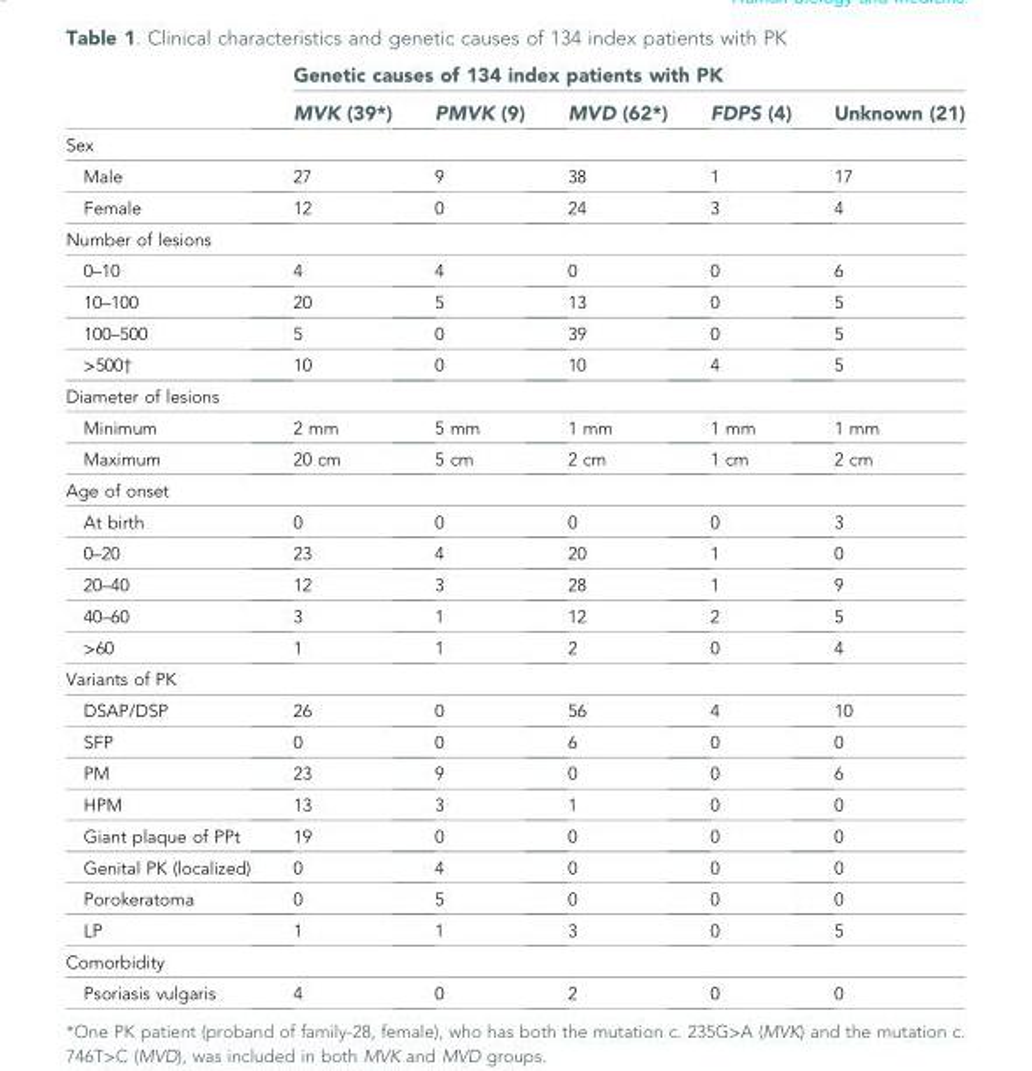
<table><thead><tr><td rowspan="2"></td><td colspan="5">Genetic causes of 134 index patients with PK</td></tr><tr><td>MVK (39*)</td><td>PMVK (9)</td><td>MVD (62*)</td><td>FDPS (4)</td><td>Unknown (21)</td></tr></thead><tbody><tr><td colspan="6">Sex</td></tr><tr><td>Male</td><td>27</td><td>9</td><td>38</td><td>1</td><td>17</td></tr><tr><td>Female</td><td>12</td><td>0</td><td>24</td><td>3</td><td>4</td></tr><tr><td colspan="6">Number of lesions</td></tr><tr><td>0–10</td><td>4</td><td>4</td><td>0</td><td>0</td><td>6</td></tr><tr><td>10–100</td><td>20</td><td>5</td><td>13</td><td>0</td><td>5</td></tr><tr><td>100–500</td><td>5</td><td>0</td><td>39</td><td>0</td><td>5</td></tr><tr><td>&gt;500†</td><td>10</td><td>0</td><td>10</td><td>4</td><td>5</td></tr><tr><td colspan="6">Diameter of lesions</td></tr><tr><td>Minimum</td><td>2 mm</td><td>5 mm</td><td>1 mm</td><td>1 mm</td><td>1 mm</td></tr><tr><td>Maximum</td><td>20 cm</td><td>5 cm</td><td>2 cm</td><td>1 cm</td><td>2 cm</td></tr><tr><td colspan="6">Age of onset</td></tr><tr><td>At birth</td><td>0</td><td>0</td><td>0</td><td>0</td><td>3</td></tr><tr><td>0–20</td><td>23</td><td>4</td><td>20</td><td>1</td><td>0</td></tr><tr><td>20–40</td><td>12</td><td>3</td><td>28</td><td>1</td><td>9</td></tr><tr><td>40–60</td><td>3</td><td>1</td><td>12</td><td>2</td><td>5</td></tr><tr><td>&gt;60</td><td>1</td><td>1</td><td>2</td><td>0</td><td>4</td></tr><tr><td colspan="6">Variants of PK</td></tr><tr><td>DSAP/DSP</td><td>26</td><td>0</td><td>56</td><td>4</td><td>10</td></tr><tr><td>SFP</td><td>0</td><td>0</td><td>6</td><td>0</td><td>0</td></tr><tr><td>PM</td><td>23</td><td>9</td><td>0</td><td>0</td><td>6</td></tr><tr><td>HPM</td><td>13</td><td>3</td><td>1</td><td>0</td><td>0</td></tr><tr><td>Giant plaque of PPt</td><td>19</td><td>0</td><td>0</td><td>0</td><td>0</td></tr><tr><td>Genital PK (localized)</td><td>0</td><td>4</td><td>0</td><td>0</td><td>0</td></tr><tr><td>Porokeratoma</td><td>0</td><td>5</td><td>0</td><td>0</td><td>0</td></tr><tr><td>LP</td><td>1</td><td>1</td><td>3</td><td>0</td><td>5</td></tr><tr><td colspan="6">Comorbidity</td></tr><tr><td>Psoriasis vulgaris</td><td>4</td><td>0</td><td>2</td><td>0</td><td>0</td></tr></tbody></table>